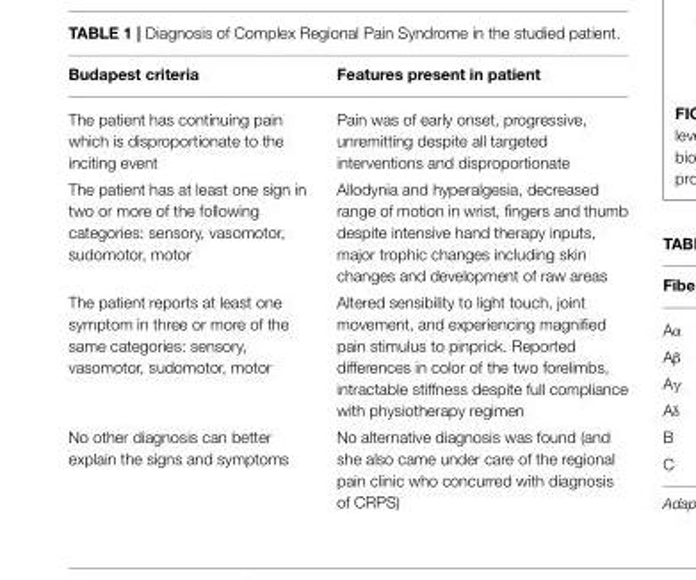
<table><thead><tr><td>Budapest criteria</td><td>Features present in patient</td></tr></thead><tbody><tr><td>The patient has continuing pain which is disproportionate to the inciting event</td><td>Pain was of early onset, progressive, unremitting despite all targeted interventions and disproportionate</td></tr><tr><td>The patient has at least one sign in two or more of the following categories: sensory, vasomotor, sudomotor, motor</td><td>Allodynia and hyperalgesia, decreased range of motion in wrist, fingers and thumb despite intensive hand therapy inputs, major trophic changes including skin changes and development of raw areas</td></tr><tr><td>The patient reports at least one symptom in three or more of the same categories: sensory, vasomotor, sudomotor, motor</td><td>Altered sensibility to light touch, joint movement, and experiencing magnified pain stimulus to pinprick. Reported differences in color of the two forelimbs, intractable stiffness despite full compliance with physiotherapy regimen</td></tr><tr><td>No other diagnosis can better explain the signs and symptoms</td><td>No alternative diagnosis was found (and she also came under care of the regional pain clinic who concurred with diagnosis of CRPS)</td></tr></tbody></table>